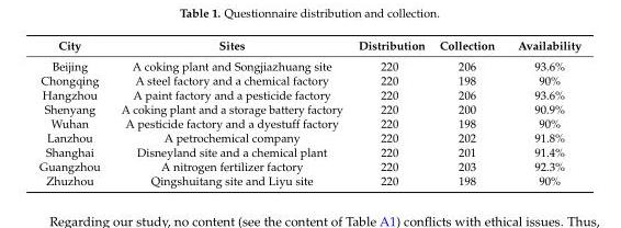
<table><thead><tr><td>City</td><td>Sites</td><td>Distribution</td><td>Collection</td><td>Availability</td></tr></thead><tbody><tr><td>Beijing</td><td>A coking plant and Songjiazhuang site</td><td>220</td><td>206</td><td>93.6%</td></tr><tr><td>Chongqing</td><td>A steel factory and a chemical factory</td><td>220</td><td>198</td><td>90%</td></tr><tr><td>Hangzhou</td><td>A paint factory and a pesticide factory</td><td>220</td><td>206</td><td>93.6%</td></tr><tr><td>Shenyang</td><td>A coking plant and a storage battery factory</td><td>220</td><td>200</td><td>90.9%</td></tr><tr><td>Wuhan</td><td>A pesticide factory and a dyestuff factory</td><td>220</td><td>198</td><td>90%</td></tr><tr><td>Lanzhou</td><td>A petrochemical company</td><td>220</td><td>202</td><td>91.8%</td></tr><tr><td>Shanghai</td><td>Disneyland site and a chemical plant</td><td>220</td><td>201</td><td>91.4%</td></tr><tr><td>Guangzhou</td><td>A nitrogen fertilizer factory</td><td>220</td><td>203</td><td>92.3%</td></tr><tr><td>Zhuzhou</td><td>Qingshuitang site and Liyu site</td><td>220</td><td>198</td><td>90%</td></tr></tbody></table>